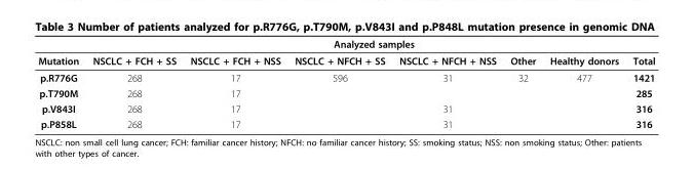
<table><thead><tr><td rowspan="2">Mutation</td><td colspan="7">Analyzed samples</td></tr><tr><td>NSCLC + FCH + SS</td><td>NSCLC + FCH + NSS</td><td>NSCLC + NFCH + SS</td><td>NSCLC + NFCH + NSS</td><td>Other</td><td>Healthy donors</td><td>Total</td></tr></thead><tbody><tr><td>p.R776G</td><td>268</td><td>17</td><td>596</td><td>31</td><td>32</td><td>477</td><td>1421</td></tr><tr><td>p.T790M</td><td>268</td><td>17</td><td></td><td></td><td></td><td></td><td>285</td></tr><tr><td>p.V843I</td><td>268</td><td>17</td><td></td><td>31</td><td></td><td></td><td>316</td></tr><tr><td>p.P858L</td><td>268</td><td>17</td><td></td><td>31</td><td></td><td></td><td>316</td></tr></tbody></table>